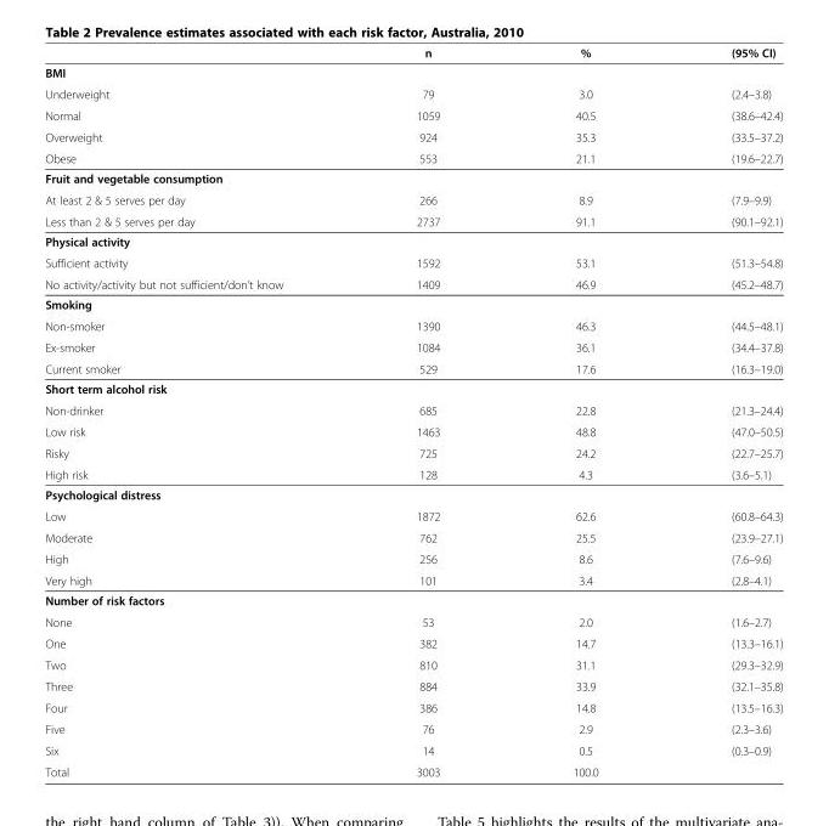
<table><thead><tr><td></td><td>n</td><td>%</td><td>(95% CI)</td></tr></thead><tbody><tr><td colspan="4">BMI</td></tr><tr><td>Underweight</td><td>79</td><td>3.0</td><td>(2.4–3.8)</td></tr><tr><td>Normal</td><td>1059</td><td>40.5</td><td>(38.6–42.4)</td></tr><tr><td>Overweight</td><td>924</td><td>35.3</td><td>(33.5–37.2)</td></tr><tr><td>Obese</td><td>553</td><td>21.1</td><td>(19.6–22.7)</td></tr><tr><td colspan="4">Fruit and vegetable consumption</td></tr><tr><td>At least 2 &amp; 5 serves per day</td><td>266</td><td>8.9</td><td>(7.9–9.9)</td></tr><tr><td>Less than 2 &amp; 5 serves per day</td><td>2737</td><td>91.1</td><td>(90.1–92.1)</td></tr><tr><td colspan="4">Physical activity</td></tr><tr><td>Sufficient activity</td><td>1592</td><td>53.1</td><td>(51.3–54.8)</td></tr><tr><td>No activity/activity but not sufficient/don’t know</td><td>1409</td><td>46.9</td><td>(45.2–48.7)</td></tr><tr><td colspan="4">Smoking</td></tr><tr><td>Non-smoker</td><td>1390</td><td>46.3</td><td>(44.5–48.1)</td></tr><tr><td>Ex-smoker</td><td>1084</td><td>36.1</td><td>(34.4–37.8)</td></tr><tr><td>Current smoker</td><td>529</td><td>17.6</td><td>(16.3–19.0)</td></tr><tr><td colspan="4">Short term alcohol risk</td></tr><tr><td>Non-drinker</td><td>685</td><td>22.8</td><td>(21.3–24.4)</td></tr><tr><td>Low risk</td><td>1463</td><td>48.8</td><td>(47.0–50.5)</td></tr><tr><td>Risky</td><td>725</td><td>24.2</td><td>(22.7–25.7)</td></tr><tr><td>High risk</td><td>128</td><td>4.3</td><td>(3.6–5.1)</td></tr><tr><td colspan="4">Psychological distress</td></tr><tr><td>Low</td><td>1872</td><td>62.6</td><td>(60.8–64.3)</td></tr><tr><td>Moderate</td><td>762</td><td>25.5</td><td>(23.9–27.1)</td></tr><tr><td>High</td><td>256</td><td>8.6</td><td>(7.6–9.6)</td></tr><tr><td>Very high</td><td>101</td><td>3.4</td><td>(2.8–4.1)</td></tr><tr><td colspan="4">Number of risk factors</td></tr><tr><td>None</td><td>53</td><td>2.0</td><td>(1.6–2.7)</td></tr><tr><td>One</td><td>382</td><td>14.7</td><td>(13.3–16.1)</td></tr><tr><td>Two</td><td>810</td><td>31.1</td><td>(29.3–32.9)</td></tr><tr><td>Three</td><td>884</td><td>33.9</td><td>(32.1–35.8)</td></tr><tr><td>Four</td><td>386</td><td>14.8</td><td>(13.5–16.3)</td></tr><tr><td>Five</td><td>76</td><td>2.9</td><td>(2.3–3.6)</td></tr><tr><td>Six</td><td>14</td><td>0.5</td><td>(0.3–0.9)</td></tr><tr><td>Total</td><td>3003</td><td>100.0</td><td></td></tr></tbody></table>